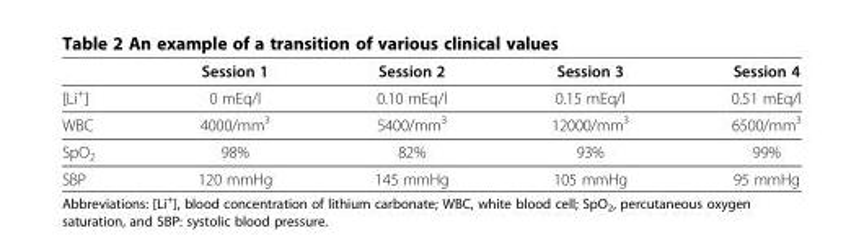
<table><thead><tr><td></td><td>Session 1</td><td>Session 2</td><td>Session 3</td><td>Session 4</td></tr></thead><tbody><tr><td>[Li<sup>+</sup>]</td><td>0 mEq/l</td><td>0.10 mEq/l</td><td>0.15 mEq/l</td><td>0.51 mEq/l</td></tr><tr><td>WBC</td><td>4000/mm<sup>3</sup></td><td>5400/mm<sup>3</sup></td><td>12000/mm<sup>3</sup></td><td>6500/mm<sup>3</sup></td></tr><tr><td>SpO<sub>2</sub></td><td>98%</td><td>82%</td><td>93%</td><td>99%</td></tr><tr><td>SBP</td><td>120 mmHg</td><td>145 mmHg</td><td>105 mmHg</td><td>95 mmHg</td></tr></tbody></table>